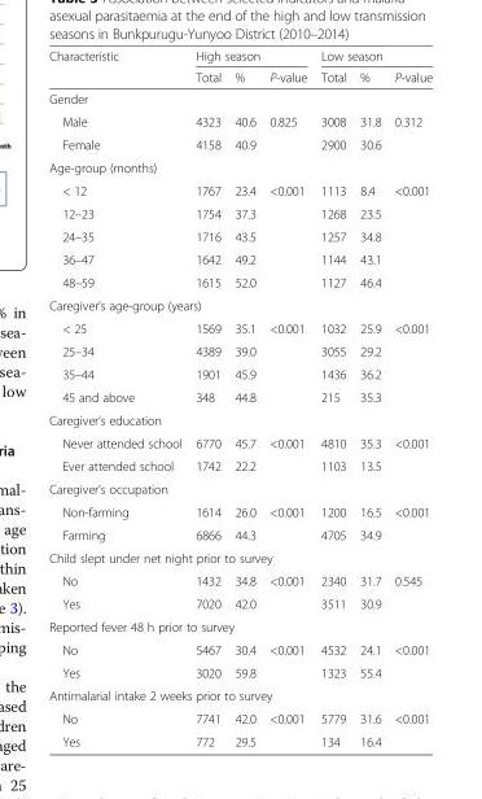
<table><thead><tr><td rowspan="2">Characteristic</td><td colspan="3">High season</td><td colspan="3">Low season</td></tr><tr><td>Total</td><td>%</td><td>P-value</td><td>Total</td><td>%</td><td>P-value</td></tr></thead><tbody><tr><td colspan="7">Gender</td></tr><tr><td>Male</td><td>4323</td><td>40.6</td><td rowspan="2">0.825</td><td>3008</td><td>31.8</td><td rowspan="2">0.312</td></tr><tr><td>Female</td><td>4158</td><td>40.9</td><td>2900</td><td>30.6</td></tr><tr><td colspan="7">Age-group (months)</td></tr><tr><td>&lt; 12</td><td>1767</td><td>23.4</td><td rowspan="5">&lt;0.001</td><td>1113</td><td>8.4</td><td rowspan="5">&lt;0.001</td></tr><tr><td>12–23</td><td>1754</td><td>37.3</td><td>1268</td><td>23.5</td></tr><tr><td>24–35</td><td>1716</td><td>43.5</td><td>1257</td><td>34.8</td></tr><tr><td>36–47</td><td>1642</td><td>49.2</td><td>1144</td><td>43.1</td></tr><tr><td>48–59</td><td>1615</td><td>52.0</td><td>1127</td><td>46.4</td></tr><tr><td colspan="7">Caregiver’s age-group (years)</td></tr><tr><td>&lt; 25</td><td>1569</td><td>35.1</td><td rowspan="4">&lt;0.001</td><td>1032</td><td>25.9</td><td rowspan="4">&lt;0.001</td></tr><tr><td>25–34</td><td>4389</td><td>39.0</td><td>3055</td><td>29.2</td></tr><tr><td>35–44</td><td>1901</td><td>45.9</td><td>1436</td><td>36.2</td></tr><tr><td>45 and above</td><td>348</td><td>44.8</td><td>215</td><td>35.3</td></tr><tr><td colspan="7">Caregiver’s education</td></tr><tr><td>Never attended school</td><td>6770</td><td>45.7</td><td rowspan="2">&lt;0.001</td><td>4810</td><td>35.3</td><td rowspan="2">&lt;0.001</td></tr><tr><td>Ever attended school</td><td>1742</td><td>22.2</td><td>1103</td><td>13.5</td></tr><tr><td colspan="7">Caregiver’s occupation</td></tr><tr><td>Non-farming</td><td>1614</td><td>26.0</td><td rowspan="2">&lt;0.001</td><td>1200</td><td>16.5</td><td rowspan="2">&lt;0.001</td></tr><tr><td>Farming</td><td>6866</td><td>44.3</td><td>4705</td><td>34.9</td></tr><tr><td colspan="7">Child slept under net night prior to survey</td></tr><tr><td>No</td><td>1432</td><td>34.8</td><td rowspan="2">&lt;0.001</td><td>2340</td><td>31.7</td><td rowspan="2">0.545</td></tr><tr><td>Yes</td><td>7020</td><td>42.0</td><td>3511</td><td>30.9</td></tr><tr><td colspan="7">Reported fever 48 h prior to survey</td></tr><tr><td>No</td><td>5467</td><td>30.4</td><td rowspan="2">&lt;0.001</td><td>4532</td><td>24.1</td><td rowspan="2">&lt;0.001</td></tr><tr><td>Yes</td><td>3020</td><td>59.8</td><td>1323</td><td>55.4</td></tr><tr><td colspan="7">Antimalarial intake 2 weeks prior to survey</td></tr><tr><td>No</td><td>7741</td><td>42.0</td><td rowspan="2">&lt;0.001</td><td>5779</td><td>31.6</td><td rowspan="2">&lt;0.001</td></tr><tr><td>Yes</td><td>772</td><td>29.5</td><td>134</td><td>16.4</td></tr></tbody></table>